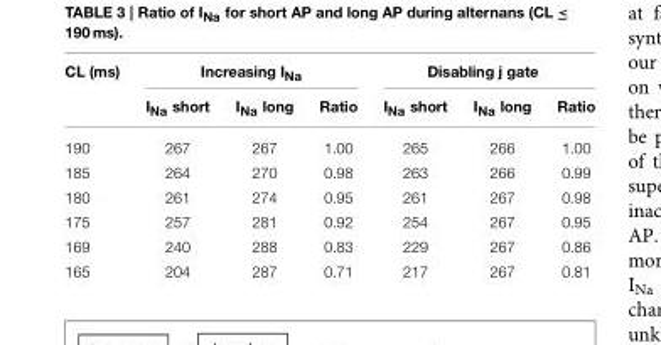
<table><thead><tr><td rowspan="2">CL (ms)</td><td colspan="3">Increasing I<sub>Na</sub></td><td colspan="3">Disabling j gate</td></tr><tr><td>I<sub>Na</sub> short</td><td>I<sub>Na</sub> long</td><td>Ratio</td><td>I<sub>Na</sub> short</td><td>I<sub>Na</sub> long</td><td>Ratio</td></tr></thead><tbody><tr><td>190</td><td>267</td><td>267</td><td>1.00</td><td>265</td><td>266</td><td>1.00</td></tr><tr><td>185</td><td>264</td><td>270</td><td>0.98</td><td>263</td><td>266</td><td>0.99</td></tr><tr><td>180</td><td>261</td><td>274</td><td>0.95</td><td>261</td><td>267</td><td>0.98</td></tr><tr><td>175</td><td>257</td><td>281</td><td>0.92</td><td>254</td><td>267</td><td>0.95</td></tr><tr><td>169</td><td>240</td><td>288</td><td>0.83</td><td>229</td><td>267</td><td>0.86</td></tr><tr><td>165</td><td>204</td><td>287</td><td>0.71</td><td>217</td><td>267</td><td>0.81</td></tr></tbody></table>